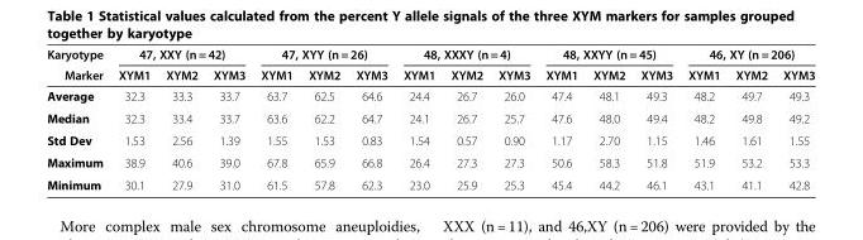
<table><thead><tr><td rowspan="2">Karyotype Marker</td><td colspan="3">47, XXY (n = 42)</td><td colspan="3">47, XYY (n = 26)</td><td colspan="3">48, XXXY (n = 4)</td><td colspan="3">48, XXYY (n = 45)</td><td colspan="3">46, XY (n = 206)</td></tr><tr><td>XYM1</td><td>XYM2</td><td>XYM3</td><td>XYM1</td><td>XYM2</td><td>XYM3</td><td>XYM1</td><td>XYM2</td><td>XYM3</td><td>XYM1</td><td>XYM2</td><td>XYM3</td><td>XYM1</td><td>XYM2</td><td>XYM3</td></tr></thead><tbody><tr><td>Average</td><td>32.3</td><td>33.3</td><td>33.7</td><td>63.7</td><td>62.5</td><td>64.6</td><td>24.4</td><td>26.7</td><td>26.0</td><td>47.4</td><td>48.1</td><td>49.3</td><td>48.2</td><td>49.7</td><td>49.3</td></tr><tr><td>Median</td><td>32.3</td><td>33.4</td><td>33.7</td><td>63.6</td><td>62.2</td><td>64.7</td><td>24.1</td><td>26.7</td><td>25.7</td><td>47.6</td><td>48.0</td><td>49.4</td><td>48.2</td><td>49.8</td><td>49.2</td></tr><tr><td>Std Dev</td><td>1.53</td><td>2.56</td><td>1.39</td><td>1.55</td><td>1.53</td><td>0.83</td><td>1.54</td><td>0.57</td><td>0.90</td><td>1.17</td><td>2.70</td><td>1.15</td><td>1.46</td><td>1.61</td><td>1.55</td></tr><tr><td>Maximum</td><td>38.9</td><td>40.6</td><td>39.0</td><td>67.8</td><td>65.9</td><td>66.8</td><td>26.4</td><td>27.3</td><td>27.3</td><td>50.6</td><td>58.3</td><td>51.8</td><td>51.9</td><td>53.2</td><td>53.3</td></tr><tr><td>Minimum</td><td>30.1</td><td>27.9</td><td>31.0</td><td>61.5</td><td>57.8</td><td>62.3</td><td>23.0</td><td>25.9</td><td>25.3</td><td>45.4</td><td>44.2</td><td>46.1</td><td>43.1</td><td>41.1</td><td>42.8</td></tr></tbody></table>